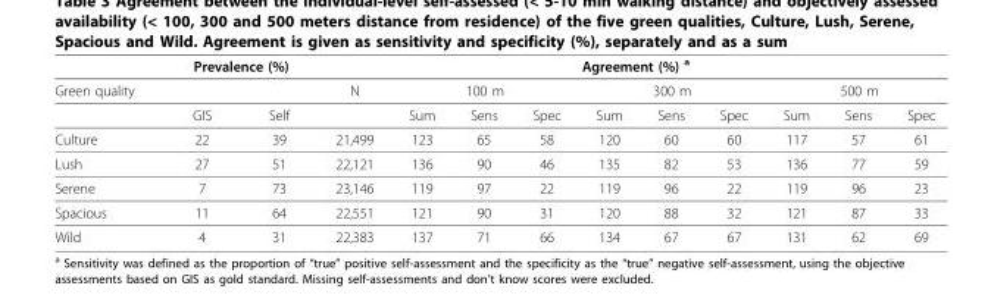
<table><thead><tr><td rowspan="3">Green quality</td><td colspan="2">Prevalence (%)</td><td colspan="10">Agreement (%) <sup>a</sup></td></tr><tr><td rowspan="2">GIS</td><td rowspan="2">Self</td><td rowspan="2">N</td><td colspan="3">100 m</td><td colspan="3">300 m</td><td colspan="3">500 m</td></tr><tr><td>Sum</td><td>Sens</td><td>Spec</td><td>Sum</td><td>Sens</td><td>Spec</td><td>Sum</td><td>Sens</td><td>Spec</td></tr></thead><tbody><tr><td>Culture</td><td>22</td><td>39</td><td>21,499</td><td>123</td><td>65</td><td>58</td><td>120</td><td>60</td><td>60</td><td>117</td><td>57</td><td>61</td></tr><tr><td>Lush</td><td>27</td><td>51</td><td>22,121</td><td>136</td><td>90</td><td>46</td><td>135</td><td>82</td><td>53</td><td>136</td><td>77</td><td>59</td></tr><tr><td>Serene</td><td>7</td><td>73</td><td>23,146</td><td>119</td><td>97</td><td>22</td><td>119</td><td>96</td><td>22</td><td>119</td><td>96</td><td>23</td></tr><tr><td>Spacious</td><td>11</td><td>64</td><td>22,551</td><td>121</td><td>90</td><td>31</td><td>120</td><td>88</td><td>32</td><td>121</td><td>87</td><td>33</td></tr><tr><td>Wild</td><td>4</td><td>31</td><td>22,383</td><td>137</td><td>71</td><td>66</td><td>134</td><td>67</td><td>67</td><td>131</td><td>62</td><td>69</td></tr></tbody></table>